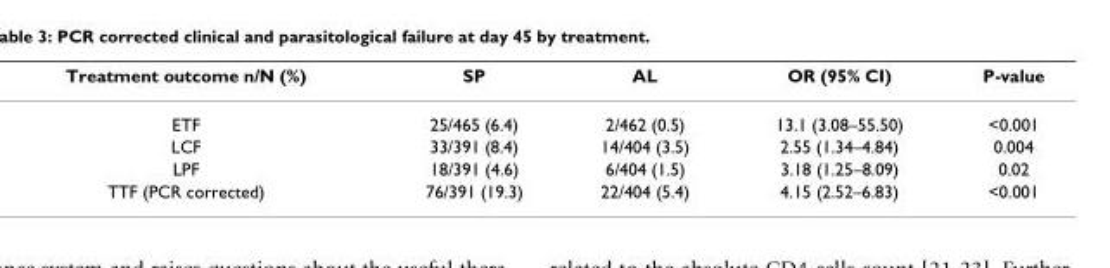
<table><thead><tr><td>Treatment outcome n/N (%)</td><td>SP</td><td>AL</td><td>OR (95% CI)</td><td>P-value</td></tr></thead><tbody><tr><td>ETF</td><td>25/465 (6.4)</td><td>2/462 (0.5)</td><td>13.1 (3.08–55.50)</td><td>&lt;0.001</td></tr><tr><td>LCF</td><td>33/391 (8.4)</td><td>14/404 (3.5)</td><td>2.55 (1.34–4.84)</td><td>0.004</td></tr><tr><td>LPF</td><td>18/391 (4.6)</td><td>6/404 (1.5)</td><td>3.18 (1.25–8.09)</td><td>0.02</td></tr><tr><td>TTF (PCR corrected)</td><td>76/391 (19.3)</td><td>22/404 (5.4)</td><td>4.15 (2.52–6.83)</td><td>&lt;0.001</td></tr></tbody></table>